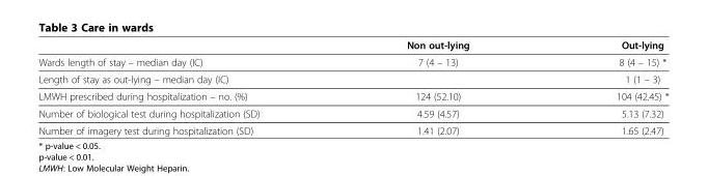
<table><thead><tr><td></td><td>Non out-lying</td><td>Out-lying</td></tr></thead><tbody><tr><td>Wards length of stay – median day (IC)</td><td>7 (4 – 13)</td><td>8 (4 – 15) *</td></tr><tr><td>Length of stay as out-lying – median day (IC)</td><td></td><td>1 (1 – 3)</td></tr><tr><td>LMWH prescribed during hospitalization – no. (%)</td><td>124 (52.10)</td><td>104 (42.45) *</td></tr><tr><td>Number of biological test during hospitalization (SD)</td><td>4.59 (4.57)</td><td>5.13 (7.32)</td></tr><tr><td>Number of imagery test during hospitalization (SD)</td><td>1.41 (2.07)</td><td>1.65 (2.47)</td></tr></tbody></table>